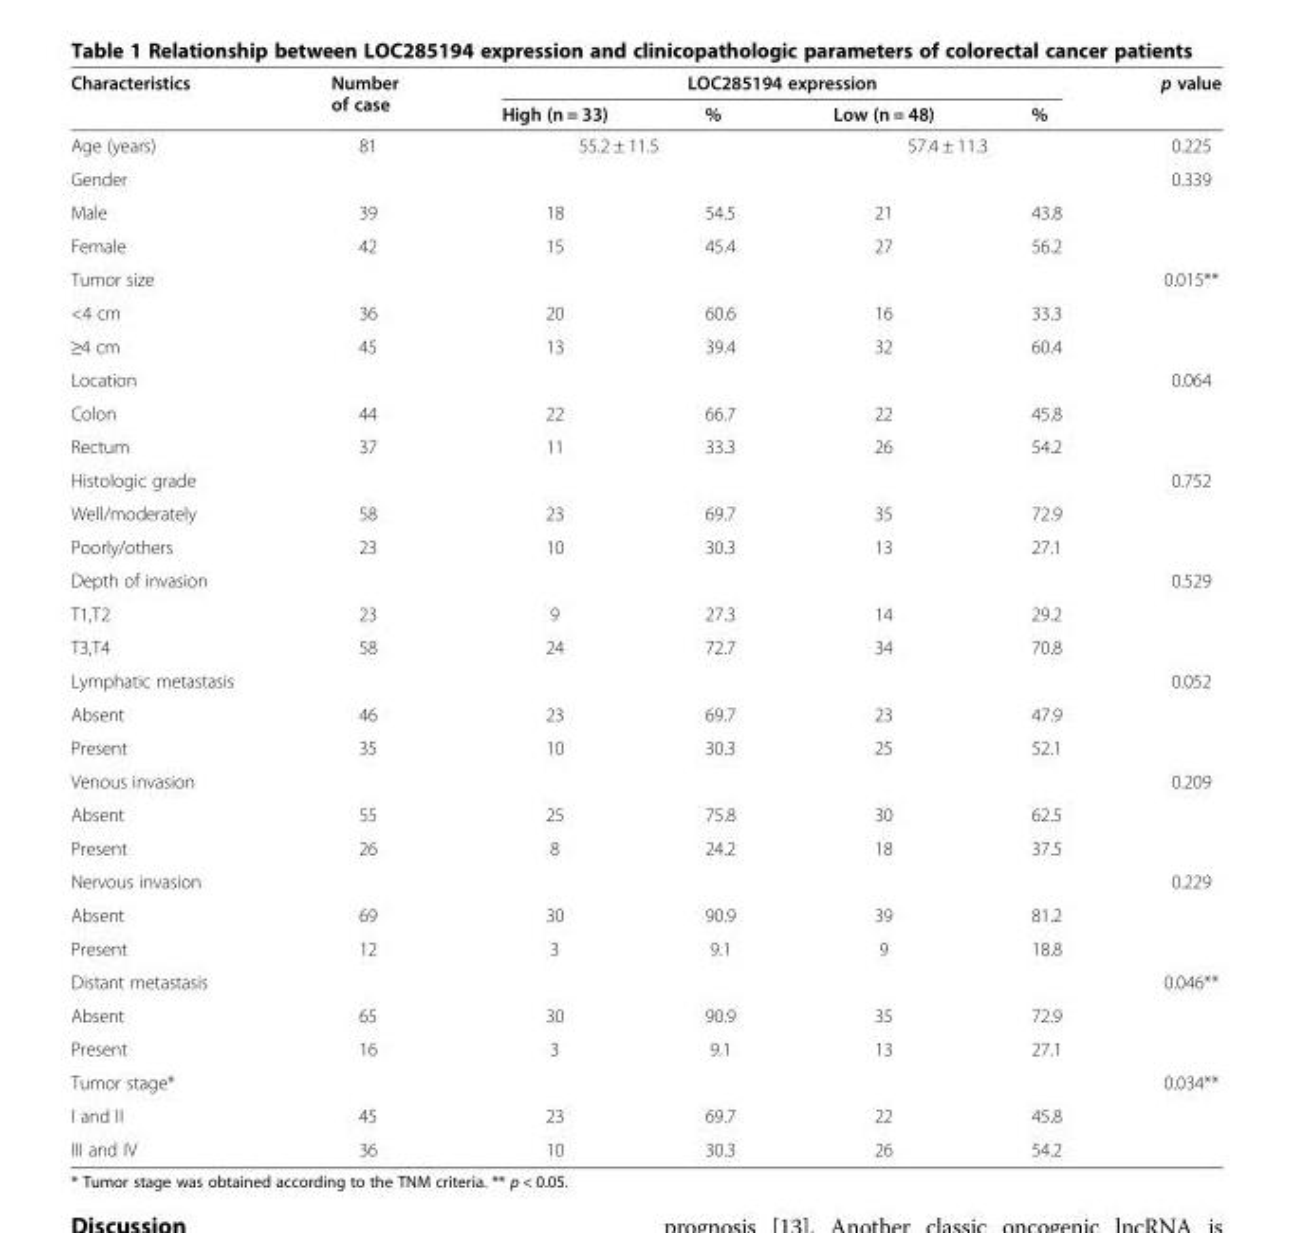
<table><thead><tr><td rowspan="2">Characteristics</td><td rowspan="2">Number of case</td><td colspan="4">LOC285194 expression</td><td rowspan="2">p value</td></tr><tr><td>High (n = 33)</td><td>%</td><td>Low (n = 48)</td><td>%</td></tr></thead><tbody><tr><td>Age (years)</td><td>81</td><td colspan="2">55.2 ± 11.5</td><td colspan="2">57.4 ± 11.3</td><td>0.225</td></tr><tr><td>Gender</td><td></td><td></td><td></td><td></td><td></td><td>0.339</td></tr><tr><td>Male</td><td>39</td><td>18</td><td>54.5</td><td>21</td><td>43.8</td><td></td></tr><tr><td>Female</td><td>42</td><td>15</td><td>45.4</td><td>27</td><td>56.2</td><td></td></tr><tr><td>Tumor size</td><td></td><td></td><td></td><td></td><td></td><td>0.015**</td></tr><tr><td>&lt;4 cm</td><td>36</td><td>20</td><td>60.6</td><td>16</td><td>33.3</td><td></td></tr><tr><td>≥4 cm</td><td>45</td><td>13</td><td>39.4</td><td>32</td><td>60.4</td><td></td></tr><tr><td>Location</td><td></td><td></td><td></td><td></td><td></td><td>0.064</td></tr><tr><td>Colon</td><td>44</td><td>22</td><td>66.7</td><td>22</td><td>45.8</td><td></td></tr><tr><td>Rectum</td><td>37</td><td>11</td><td>33.3</td><td>26</td><td>54.2</td><td></td></tr><tr><td>Histologic grade</td><td></td><td></td><td></td><td></td><td></td><td>0.752</td></tr><tr><td>Well/moderately</td><td>58</td><td>23</td><td>69.7</td><td>35</td><td>72.9</td><td></td></tr><tr><td>Poorly/others</td><td>23</td><td>10</td><td>30.3</td><td>13</td><td>27.1</td><td></td></tr><tr><td>Depth of invasion</td><td></td><td></td><td></td><td></td><td></td><td>0.529</td></tr><tr><td>T1,T2</td><td>23</td><td>9</td><td>27.3</td><td>14</td><td>29.2</td><td></td></tr><tr><td>T3,T4</td><td>58</td><td>24</td><td>72.7</td><td>34</td><td>70.8</td><td></td></tr><tr><td>Lymphatic metastasis</td><td></td><td></td><td></td><td></td><td></td><td>0.052</td></tr><tr><td>Absent</td><td>46</td><td>23</td><td>69.7</td><td>23</td><td>47.9</td><td></td></tr><tr><td>Present</td><td>35</td><td>10</td><td>30.3</td><td>25</td><td>52.1</td><td></td></tr><tr><td>Venous invasion</td><td></td><td></td><td></td><td></td><td></td><td>0.209</td></tr><tr><td>Absent</td><td>55</td><td>25</td><td>75.8</td><td>30</td><td>62.5</td><td></td></tr><tr><td>Present</td><td>26</td><td>8</td><td>24.2</td><td>18</td><td>37.5</td><td></td></tr><tr><td>Nervous invasion</td><td></td><td></td><td></td><td></td><td></td><td>0.229</td></tr><tr><td>Absent</td><td>69</td><td>30</td><td>90.9</td><td>39</td><td>81.2</td><td></td></tr><tr><td>Present</td><td>12</td><td>3</td><td>9.1</td><td>9</td><td>18.8</td><td></td></tr><tr><td>Distant metastasis</td><td></td><td></td><td></td><td></td><td></td><td>0.046**</td></tr><tr><td>Absent</td><td>65</td><td>30</td><td>90.9</td><td>35</td><td>72.9</td><td></td></tr><tr><td>Present</td><td>16</td><td>3</td><td>9.1</td><td>13</td><td>27.1</td><td></td></tr><tr><td>Tumor stage*</td><td></td><td></td><td></td><td></td><td></td><td>0.034**</td></tr><tr><td>I and II</td><td>45</td><td>23</td><td>69.7</td><td>22</td><td>45.8</td><td></td></tr><tr><td>III and IV</td><td>36</td><td>10</td><td>30.3</td><td>26</td><td>54.2</td><td></td></tr></tbody></table>